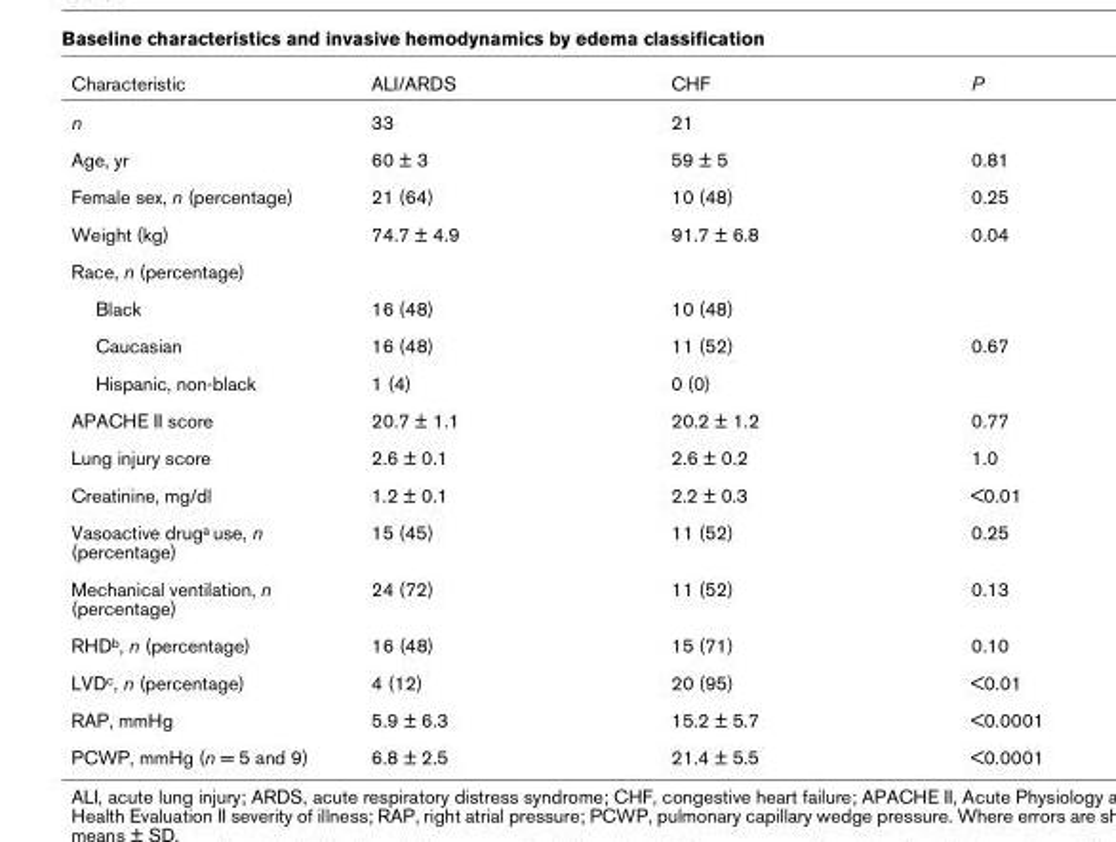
<table><thead><tr><td>Characteristic</td><td>ALI/ARDS</td><td>CHF</td><td>P</td></tr></thead><tbody><tr><td>n</td><td>33</td><td>21</td><td></td></tr><tr><td>Age, yr</td><td>60 ± 3</td><td>59 ± 5</td><td>0.81</td></tr><tr><td>Female sex, n (percentage)</td><td>21 (64)</td><td>10 (48)</td><td>0.25</td></tr><tr><td>Weight (kg)</td><td>74.7 ± 4.9</td><td>91.7 ± 6.8</td><td>0.04</td></tr><tr><td colspan="4">Race, n (percentage)</td></tr><tr><td>Black</td><td>16 (48)</td><td>10 (48)</td><td></td></tr><tr><td>Caucasian</td><td>16 (48)</td><td>11 (52)</td><td>0.67</td></tr><tr><td>Hispanic, non-black</td><td>1 (4)</td><td>0 (0)</td><td></td></tr><tr><td>APACHE II score</td><td>20.7 ± 1.1</td><td>20.2 ± 1.2</td><td>0.77</td></tr><tr><td>Lung injury score</td><td>2.6 ± 0.1</td><td>2.6 ± 0.2</td><td>1.0</td></tr><tr><td>Creatinine, mg/dl</td><td>1.2 ± 0.1</td><td>2.2 ± 0.3</td><td>&lt;0.01</td></tr><tr><td>Vasoactive drug<sup>a</sup> use, n (percentage)</td><td>15 (45)</td><td>11 (52)</td><td>0.25</td></tr><tr><td>Mechanical ventilation, n (percentage)</td><td>24 (72)</td><td>11 (52)</td><td>0.13</td></tr><tr><td>RHD<sup>b</sup>, n (percentage)</td><td>16 (48)</td><td>15 (71)</td><td>0.10</td></tr><tr><td>LVD<sup>c</sup>, n (percentage)</td><td>4 (12)</td><td>20 (95)</td><td>&lt;0.01</td></tr><tr><td>RAP, mmHg</td><td>5.9 ± 6.3</td><td>15.2 ± 5.7</td><td>&lt;0.0001</td></tr><tr><td>PCWP, mmHg (n = 5 and 9)</td><td>6.8 ± 2.5</td><td>21.4 ± 5.5</td><td>&lt;0.0001</td></tr></tbody></table>